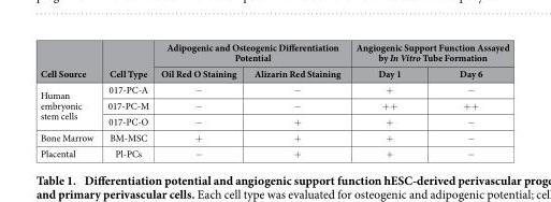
<table><thead><tr><td rowspan="2">Cell Source</td><td rowspan="2">Cell Type</td><td colspan="2">Adipogenic and Osteogenic Differentiation Potential</td><td colspan="2">Angiogenic Support Function Assayed by In Vitro Tube Formation</td></tr><tr><td>Oil Red O Staining</td><td>Alizarin Red Staining</td><td>Day 1</td><td>Day 6</td></tr></thead><tbody><tr><td rowspan="3">Human embryonic stem cells</td><td>017-PC-A</td><td>−</td><td>−</td><td>+</td><td>−</td></tr><tr><td>017-PC-M</td><td>−</td><td>−</td><td>+ +</td><td>+ +</td></tr><tr><td>017-PC-O</td><td>−</td><td>+</td><td>+</td><td>−</td></tr><tr><td>Bone Marrow</td><td>BM-MSC</td><td>+</td><td>+</td><td>+</td><td>−</td></tr><tr><td>Placental</td><td>Pl-PCs</td><td>−</td><td>+</td><td>+</td><td>−</td></tr></tbody></table>